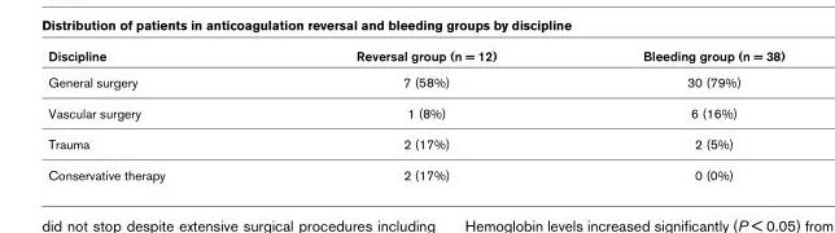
<table><thead><tr><td>Discipline</td><td>Reversal group (n = 12)</td><td>Bleeding group (n = 38)</td></tr></thead><tbody><tr><td>General surgery</td><td>7 (58%)</td><td>30 (79%)</td></tr><tr><td>Vascular surgery</td><td>1 (8%)</td><td>6 (16%)</td></tr><tr><td>Trauma</td><td>2 (17%)</td><td>2 (5%)</td></tr><tr><td>Conservative therapy</td><td>2 (17%)</td><td>0 (0%)</td></tr></tbody></table>